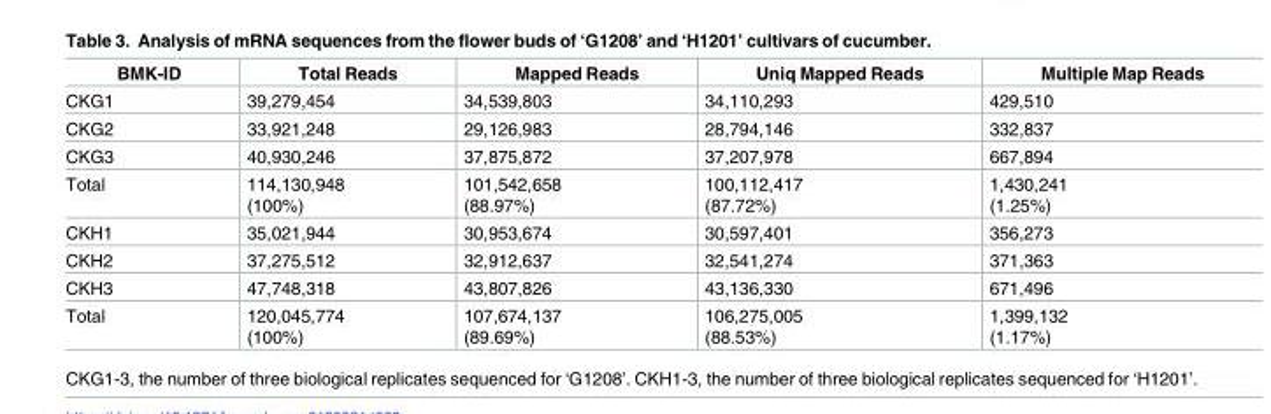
<table><thead><tr><td>BMK-ID</td><td>Total Reads</td><td>Mapped Reads</td><td>Uniq Mapped Reads</td><td>Multiple Map Reads</td></tr></thead><tbody><tr><td>CKG1</td><td>39,279,454</td><td>34,539,803</td><td>34,110,293</td><td>429,510</td></tr><tr><td>CKG2</td><td>33,921,248</td><td>29,126,983</td><td>28,794,146</td><td>332,837</td></tr><tr><td>CKG3</td><td>40,930,246</td><td>37,875,872</td><td>37,207,978</td><td>667,894</td></tr><tr><td>Total</td><td>114,130,948 (100%)</td><td>101,542,658 (88.97%)</td><td>100,112,417 (87.72%)</td><td>1,430,241 (1.25%)</td></tr><tr><td>CKH1</td><td>35,021,944</td><td>30,953,674</td><td>30,597,401</td><td>356,273</td></tr><tr><td>CKH2</td><td>37,275,512</td><td>32,912,637</td><td>32,541,274</td><td>371,363</td></tr><tr><td>CKH3</td><td>47,748,318</td><td>43,807,826</td><td>43,136,330</td><td>671,496</td></tr><tr><td>Total</td><td>120,045,774 (100%)</td><td>107,674,137 (89.69%)</td><td>106,275,005 (88.53%)</td><td>1,399,132 (1.17%)</td></tr></tbody></table>